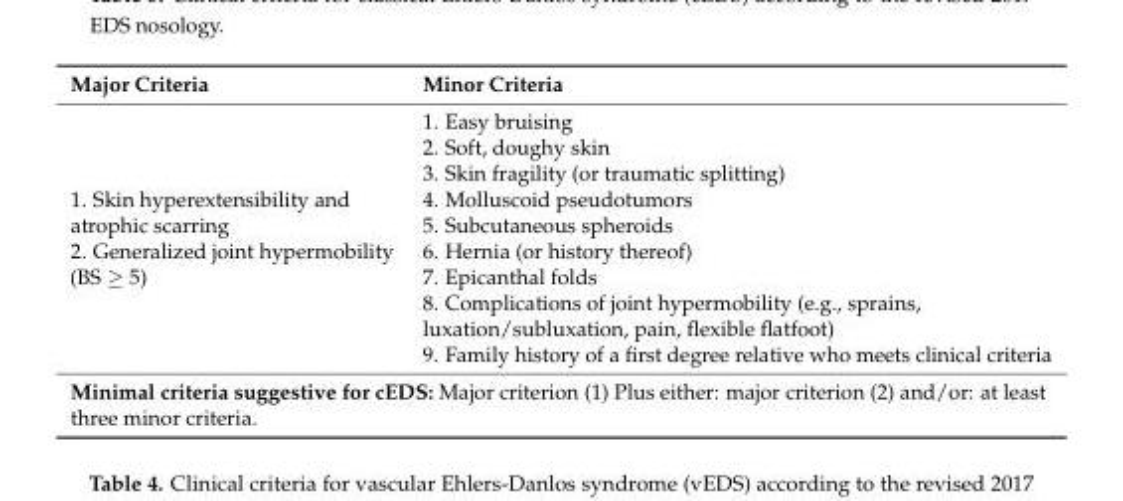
<table><thead><tr><td>Major Criteria</td><td>Minor Criteria</td></tr></thead><tbody><tr><td>1. Skin hyperextensibility and atrophic scarring 2. Generalized joint hypermobility (BS ≥ 5)</td><td>1. Easy bruising 2. Soft, doughy skin 3. Skin fragility (or traumatic splitting) 4. Molluscoid pseudotumors 5. Subcutaneous spheroids 6. Hernia (or history thereof) 7. Epicanthal folds 8. Complications of joint hypermobility (e.g., sprains, luxation/subluxation, pain, flexible flatfoot) 9. Family history of a first degree relative who meets clinical criteria</td></tr><tr><td colspan="2">Minimal criteria suggestive for cEDS: Major criterion (1) Plus either: major criterion (2) and/or: at least three minor criteria.</td></tr></tbody></table>